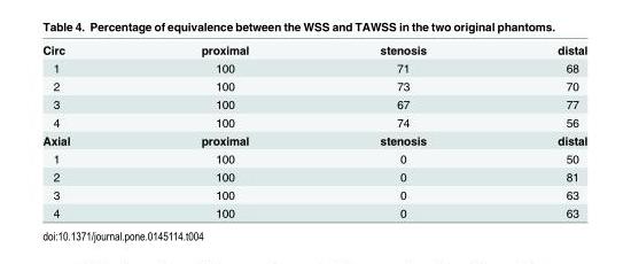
<table><tbody><tr><td>Circ</td><td>proximal</td><td>stenosis</td><td>distal</td></tr><tr><td>1</td><td>100</td><td>71</td><td>68</td></tr><tr><td>2</td><td>100</td><td>73</td><td>70</td></tr><tr><td>3</td><td>100</td><td>67</td><td>77</td></tr><tr><td>4</td><td>100</td><td>74</td><td>56</td></tr><tr><td>Axial</td><td>proximal</td><td>stenosis</td><td>distal</td></tr><tr><td>1</td><td>100</td><td>0</td><td>50</td></tr><tr><td>2</td><td>100</td><td>0</td><td>81</td></tr><tr><td>3</td><td>100</td><td>0</td><td>63</td></tr><tr><td>4</td><td>100</td><td>0</td><td>63</td></tr></tbody></table>